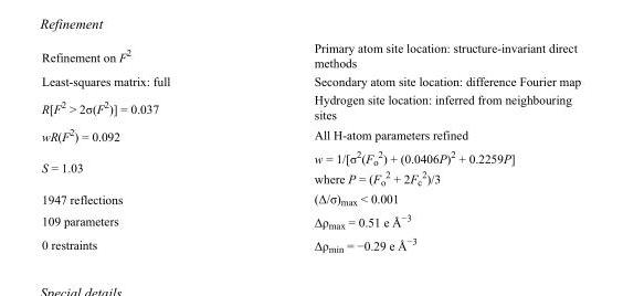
<table><tbody><tr><td>Refinement on F<sup>2</sup></td><td>Primary atom site location: structure-invariant direct methods</td></tr><tr><td>Least-squares matrix: full</td><td>Secondary atom site location: difference Fourier map</td></tr><tr><td>R[F<sup>2</sup> &gt; 2σ(F<sup>2</sup>)] = 0.037</td><td>Hydrogen site location: inferred from neighbouring sites</td></tr><tr><td>wR(F<sup>2</sup>) = 0.092</td><td>All H-atom parameters refined</td></tr><tr><td>S = 1.03</td><td>w = 1/[σ<sup>2</sup>(F<sub>o</sub> <sup>2</sup>) + (0.0406P)<sup>2</sup> + 0.2259P] where P = (F<sub>o</sub> <sup>2</sup> + 2F<sub>c</sub> <sup>2</sup>)/3</td></tr><tr><td>1947 reflections</td><td>(Δ/σ)<sub>max</sub> &lt; 0.001</td></tr><tr><td>109 parameters</td><td>Δρ<sub>max</sub> = 0.51 e Å<sup>−3</sup></td></tr><tr><td>0 restraints</td><td>Δρ<sub>min</sub> = −0.29 e Å<sup>−3</sup></td></tr></tbody></table>